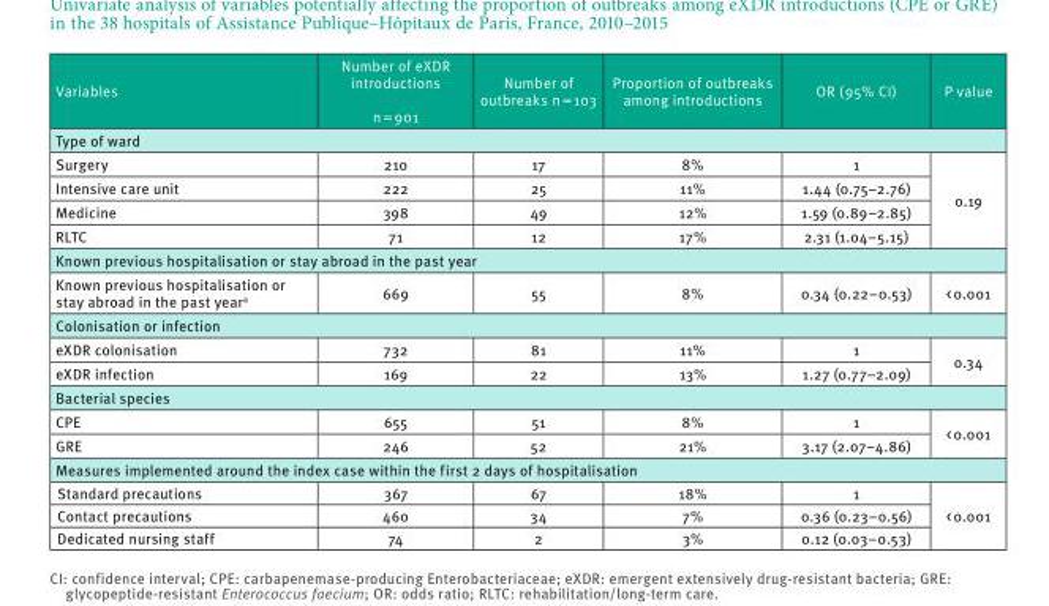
<table><thead><tr><td>Variables</td><td>Number of eXDR introductions n = 901</td><td>Number of outbreaks n = 103</td><td>Proportion of outbreaks among introductions</td><td>OR (95% CI)</td><td>P value</td></tr></thead><tbody><tr><td colspan="6">Type of ward</td></tr><tr><td>Surgery</td><td>210</td><td>17</td><td>8%</td><td>1</td><td rowspan="4">0.19</td></tr><tr><td>Intensive care unit</td><td>222</td><td>25</td><td>11%</td><td>1.44 (0.75–2.76)</td></tr><tr><td>Medicine</td><td>398</td><td>49</td><td>12%</td><td>1.59 (0.89–2.85)</td></tr><tr><td>RLTC</td><td>71</td><td>12</td><td>17%</td><td>2.31 (1.04–5.15)</td></tr><tr><td colspan="6">Known previous hospitalisation or stay abroad in the past year</td></tr><tr><td>Known previous hospitalisation or stay abroad in the past year<sup>a</sup></td><td>669</td><td>55</td><td>8%</td><td>0.34 (0.22–0.53)</td><td>&lt; 0.001</td></tr><tr><td colspan="6">Colonisation or infection</td></tr><tr><td>eXDR colonisation</td><td>732</td><td>81</td><td>11%</td><td>1</td><td rowspan="2">0.34</td></tr><tr><td>eXDR infection</td><td>169</td><td>22</td><td>13%</td><td>1.27 (0.77–2.09)</td></tr><tr><td colspan="6">Bacterial species</td></tr><tr><td>CPE</td><td>655</td><td>51</td><td>8%</td><td>1</td><td rowspan="2">&lt; 0.001</td></tr><tr><td>GRE</td><td>246</td><td>52</td><td>21%</td><td>3.17 (2.07–4.86)</td></tr><tr><td colspan="6">Measures implemented around the index case within the first 2 days of hospitalisation</td></tr><tr><td>Standard precautions</td><td>367</td><td>67</td><td>18%</td><td>1</td><td rowspan="3">&lt; 0.001</td></tr><tr><td>Contact precautions</td><td>460</td><td>34</td><td>7%</td><td>0.36 (0.23–0.56)</td></tr><tr><td>Dedicated nursing staff</td><td>74</td><td>2</td><td>3%</td><td>0.12 (0.03–0.53)</td></tr></tbody></table>